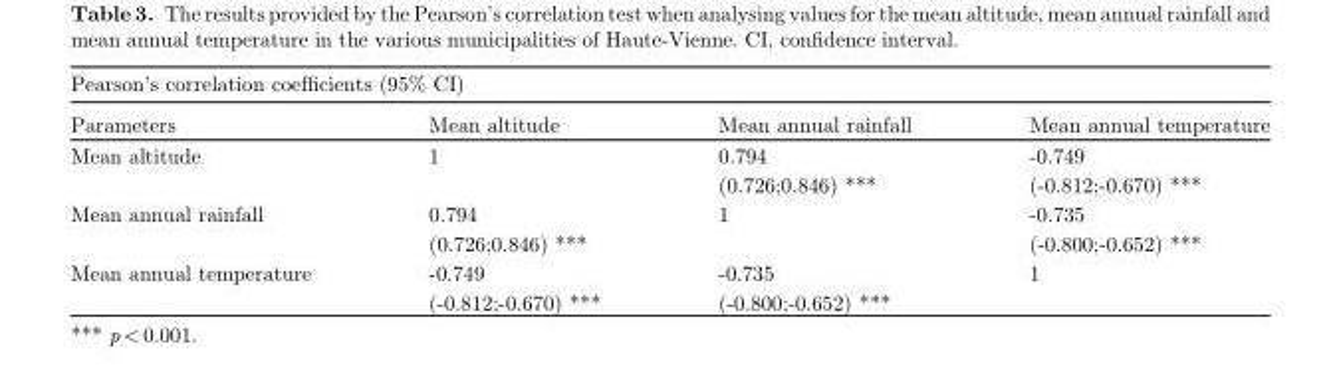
<table><thead><tr><td colspan="4">Pearson’s correlation coefficients (95% CI)</td></tr><tr><td>Parameters</td><td>Mean altitude</td><td>Mean annual rainfall</td><td>Mean annual temperature</td></tr></thead><tbody><tr><td rowspan="2">Mean altitude</td><td>1</td><td>0.794</td><td>-0.749</td></tr><tr><td></td><td>(0.726;0.846) ***</td><td>(-0.812;-0.670) ***</td></tr><tr><td rowspan="2">Mean annual rainfall</td><td>0.794</td><td>1</td><td>-0.735</td></tr><tr><td>(0.726;0.846) ***</td><td></td><td>(-0.800;-0.652) ***</td></tr><tr><td rowspan="2">Mean annual temperature</td><td>-0.749</td><td>-0.735</td><td>1</td></tr><tr><td>(-0.812;-0.670) ***</td><td>(-0.800;-0.652) ***</td><td></td></tr></tbody></table>